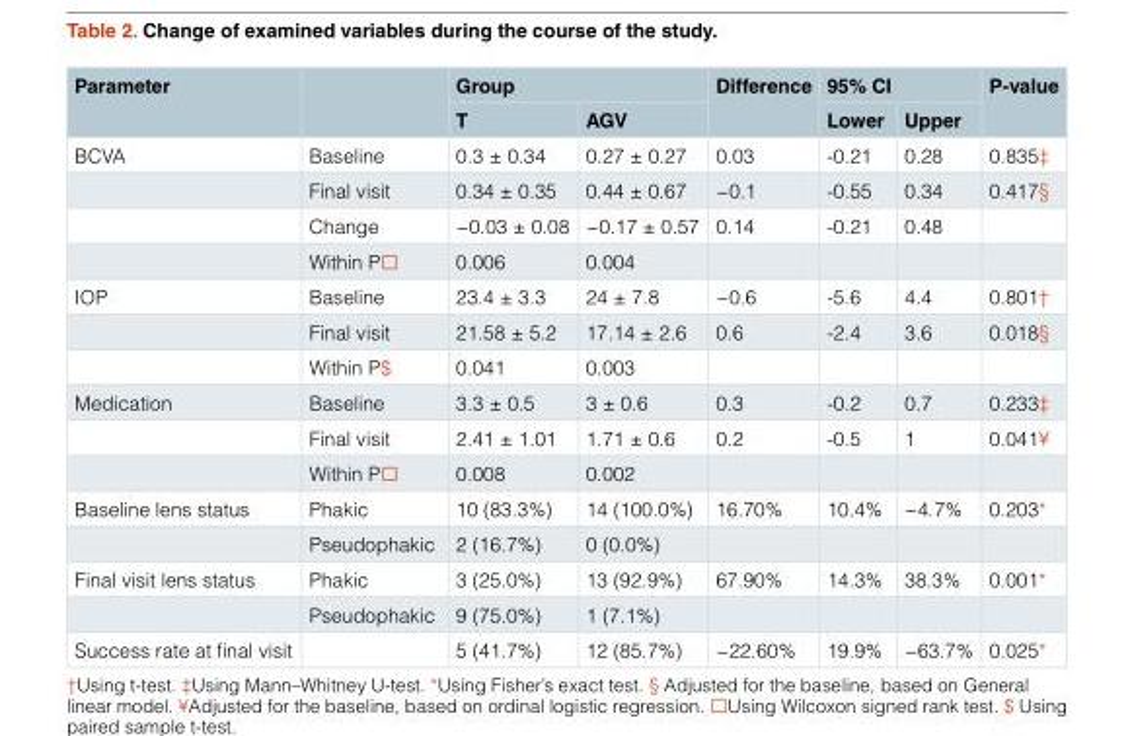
<table><thead><tr><td rowspan="2">Parameter</td><td rowspan="2"></td><td colspan="2">Group</td><td rowspan="2">Difference</td><td colspan="2">95% CI</td><td rowspan="2">P-value</td></tr><tr><td>T</td><td>AGV</td><td>Lower</td><td>Upper</td></tr></thead><tbody><tr><td rowspan="4">BCVA</td><td>Baseline</td><td>0.3 ± 0.34</td><td>0.27 ± 0.27</td><td>0.03</td><td>-0.21</td><td>0.28</td><td>0.835‡</td></tr><tr><td>Final visit</td><td>0.34 ± 0.35</td><td>0.44 ± 0.67</td><td>−0.1</td><td>-0.55</td><td>0.34</td><td>0.417§</td></tr><tr><td>Change</td><td>−0.03 ± 0.08</td><td>−0.17 ± 0.57</td><td>0.14</td><td>-0.21</td><td>0.48</td><td></td></tr><tr><td>Within Pᴥ</td><td>0.006</td><td>0.004</td><td></td><td></td><td></td><td></td></tr><tr><td rowspan="3">IOP</td><td>Baseline</td><td>23.4 ± 3.3</td><td>24 ± 7.8</td><td>−0.6</td><td>-5.6</td><td>4.4</td><td>0.801†</td></tr><tr><td>Final visit</td><td>21.58 ± 5.2</td><td>17.14 ± 2.6</td><td>0.6</td><td>-2.4</td><td>3.6</td><td>0.018§</td></tr><tr><td>Within P$</td><td>0.041</td><td>0.003</td><td></td><td></td><td></td><td></td></tr><tr><td rowspan="3">Medication</td><td>Baseline</td><td>3.3 ± 0.5</td><td>3 ± 0.6</td><td>0.3</td><td>-0.2</td><td>0.7</td><td>0.233‡</td></tr><tr><td>Final visit</td><td>2.41 ± 1.01</td><td>1.71 ± 0.6</td><td>0.2</td><td>-0.5</td><td>1</td><td>0.041¥</td></tr><tr><td>Within Pᴥ</td><td>0.008</td><td>0.002</td><td></td><td></td><td></td><td></td></tr><tr><td rowspan="2">Baseline lens status</td><td>Phakic</td><td>10 (83.3%)</td><td>14 (100.0%)</td><td>16.70%</td><td>10.4%</td><td>−4.7%</td><td>0.203*</td></tr><tr><td>Pseudophakic</td><td>2 (16.7%)</td><td>0 (0.0%)</td><td></td><td></td><td></td><td></td></tr><tr><td rowspan="2">Final visit lens status</td><td>Phakic</td><td>3 (25.0%)</td><td>13 (92.9%)</td><td>67.90%</td><td>14.3%</td><td>38.3%</td><td>0.001*</td></tr><tr><td>Pseudophakic</td><td>9 (75.0%)</td><td>1 (7.1%)</td><td></td><td></td><td></td><td></td></tr><tr><td>Success rate at final visit</td><td></td><td>5 (41.7%)</td><td>12 (85.7%)</td><td>−22.60%</td><td>19.9%</td><td>−63.7%</td><td>0.025*</td></tr></tbody></table>